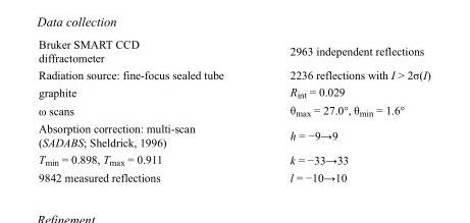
<table><tbody><tr><td>Bruker SMART CCD diffractometer</td><td>2963 independent reflections</td></tr><tr><td>Radiation source: fine-focus sealed tube</td><td>2236 reflections with I &gt; 2σ(I)</td></tr><tr><td>graphite</td><td>R<sub>int</sub> = 0.029</td></tr><tr><td>ω scans</td><td>θ<sub>max</sub> = 27.0°, θ<sub>min</sub> = 1.6°</td></tr><tr><td>Absorption correction: multi-scan (SADABS; Sheldrick, 1996)</td><td>h = −9→9</td></tr><tr><td>T<sub>min</sub> = 0.898, T<sub>max</sub> = 0.911</td><td>k = −33→33</td></tr><tr><td>9842 measured reflections</td><td>l = −10→10</td></tr></tbody></table>